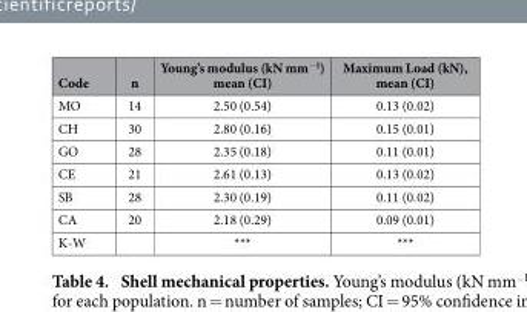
<table><thead><tr><td>Code</td><td>n</td><td>Young’s modulus (kN mm<sup>−1</sup>) mean (CI)</td><td>Maximum Load (kN), mean (CI)</td></tr></thead><tbody><tr><td>MO</td><td>14</td><td>2.50 (0.54)</td><td>0.13 (0.02)</td></tr><tr><td>CH</td><td>30</td><td>2.80 (0.16)</td><td>0.15 (0.01)</td></tr><tr><td>GO</td><td>28</td><td>2.35 (0.18)</td><td>0.11 (0.01)</td></tr><tr><td>CE</td><td>21</td><td>2.61 (0.13)</td><td>0.13 (0.02)</td></tr><tr><td>SB</td><td>28</td><td>2.30 (0.19)</td><td>0.11 (0.02)</td></tr><tr><td>CA</td><td>20</td><td>2.18 (0.29)</td><td>0.09 (0.01)</td></tr><tr><td>K-W</td><td></td><td>***</td><td>***</td></tr></tbody></table>